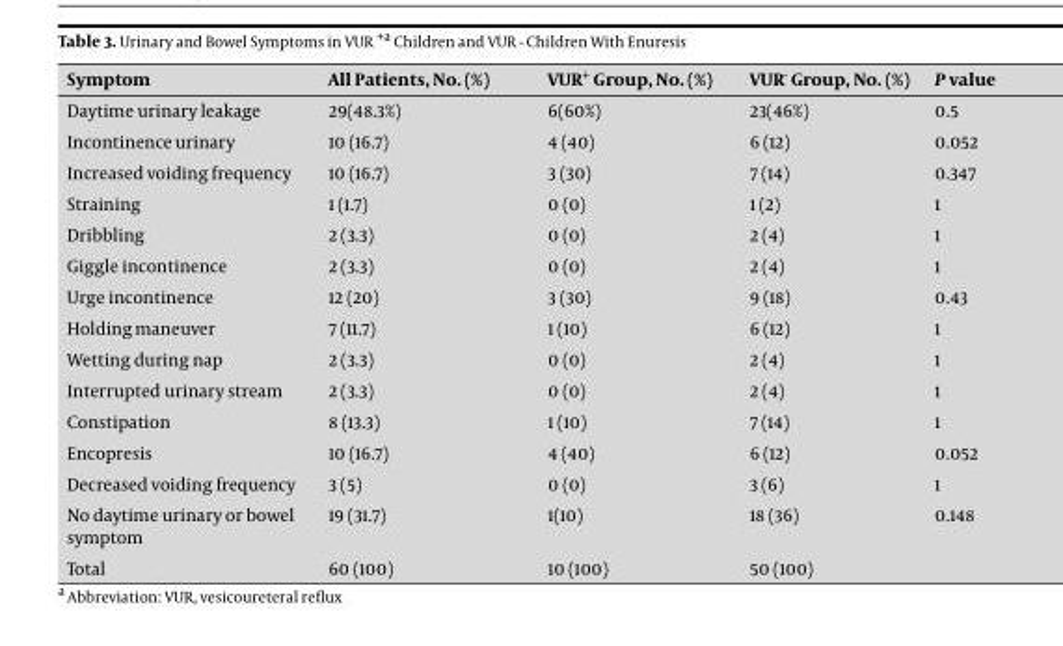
<table><thead><tr><td>Symptom</td><td>All Patients, No. (%)</td><td>VUR<sup>+</sup> Group, No. (%)</td><td>VUR<sup>-</sup> Group, No. (%)</td><td>P value</td></tr></thead><tbody><tr><td>Daytime urinary leakage</td><td>29(48.3%)</td><td>6(60%)</td><td>23(46%)</td><td>0.5</td></tr><tr><td>Incontinenceurinary</td><td>10 (16.7)</td><td>4 (40)</td><td>6 (12)</td><td>0.052</td></tr><tr><td>Increased voiding frequency</td><td>10 (16.7)</td><td>3 (30)</td><td>7 (14)</td><td>0.347</td></tr><tr><td>Straining</td><td>1 (1.7)</td><td>0 (0)</td><td>1 (2)</td><td>1</td></tr><tr><td>Dribbling</td><td>2 (3.3)</td><td>0 (0)</td><td>2 (4)</td><td>1</td></tr><tr><td>Giggle incontinence</td><td>2 (3.3)</td><td>0 (0)</td><td>2 (4)</td><td>1</td></tr><tr><td>Urge incontinence</td><td>12 (20)</td><td>3 (30)</td><td>9 (18)</td><td>0.43</td></tr><tr><td>Holdingmaneuver</td><td>7 (11.7)</td><td>1 (10)</td><td>6 (12)</td><td>1</td></tr><tr><td>Wetting during nap</td><td>2 (3.3)</td><td>0 (0)</td><td>2 (4)</td><td>1</td></tr><tr><td>Interrupted urinary stream</td><td>2 (3.3)</td><td>0 (0)</td><td>2 (4)</td><td>1</td></tr><tr><td>Constipation</td><td>8 (13.3)</td><td>1 (10)</td><td>7 (14)</td><td>1</td></tr><tr><td>Encopresis</td><td>10 (16.7)</td><td>4 (40)</td><td>6 (12)</td><td>0.052</td></tr><tr><td>Decreased voiding frequency</td><td>3 (5)</td><td>0 (0)</td><td>3 (6)</td><td>1</td></tr><tr><td>No daytime urinary or bowel symptom</td><td>19 (31.7)</td><td>1(10)</td><td>18 (36)</td><td>0.148</td></tr><tr><td>Total</td><td>60 (100)</td><td>10 (100)</td><td>50 (100)</td><td></td></tr></tbody></table>